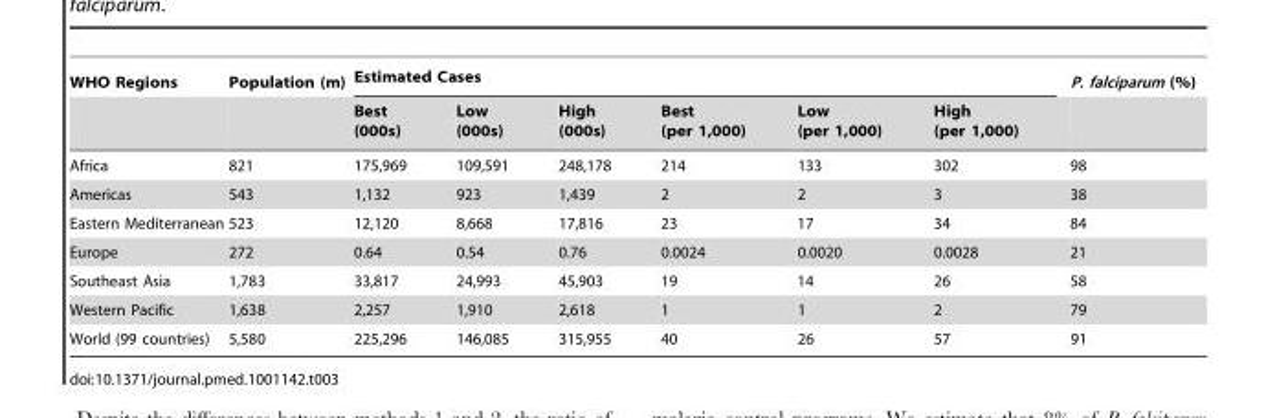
<table><thead><tr><td rowspan="2">WHO Regions</td><td rowspan="2">Population (m)</td><td colspan="6">Estimated Cases</td><td rowspan="2">P. falciparum (%)</td></tr><tr><td>Best (000s)</td><td>Low (000s)</td><td>High (000s)</td><td>Best (per 1,000)</td><td>Low (per 1,000)</td><td>High (per 1,000)</td></tr></thead><tbody><tr><td>Africa</td><td>821</td><td>175,969</td><td>109,591</td><td>248,178</td><td>214</td><td>133</td><td>302</td><td>98</td></tr><tr><td>Americas</td><td>543</td><td>1,132</td><td>923</td><td>1,439</td><td>2</td><td>2</td><td>3</td><td>38</td></tr><tr><td>Eastern Mediterranean</td><td>523</td><td>12,120</td><td>8,668</td><td>17,816</td><td>23</td><td>17</td><td>34</td><td>84</td></tr><tr><td>Europe</td><td>272</td><td>0.64</td><td>0.54</td><td>0.76</td><td>0.0024</td><td>0.0020</td><td>0.0028</td><td>21</td></tr><tr><td>Southeast Asia</td><td>1,783</td><td>33,817</td><td>24,993</td><td>45,903</td><td>19</td><td>14</td><td>26</td><td>58</td></tr><tr><td>Western Pacific</td><td>1,638</td><td>2,257</td><td>1,910</td><td>2,618</td><td>1</td><td>1</td><td>2</td><td>79</td></tr><tr><td>World (99 countries)</td><td>5,580</td><td>225,296</td><td>146,085</td><td>315,955</td><td>40</td><td>26</td><td>57</td><td>91</td></tr></tbody></table>